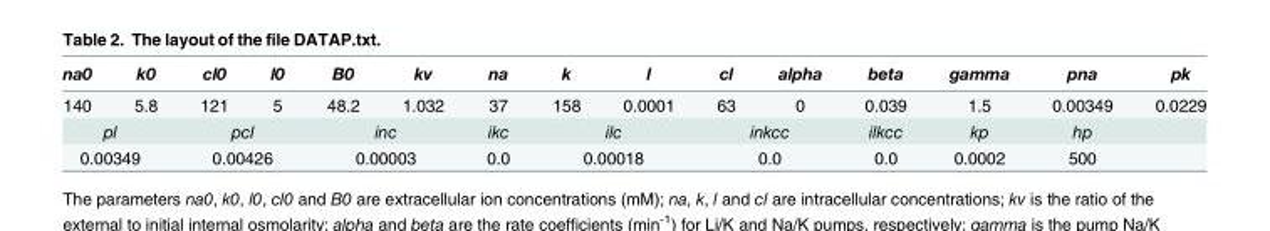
<table><thead><tr><td>na0</td><td>k0</td><td>cl0</td><td>l0</td><td>B0</td><td>kv</td><td>na</td><td>k</td><td>l</td><td>cl</td><td>alpha</td><td>beta</td><td>gamma</td><td>pna</td><td>pk</td></tr></thead><tbody><tr><td>140</td><td>5.8</td><td>121</td><td>5</td><td>48.2</td><td>1.032</td><td>37</td><td>158</td><td>0.0001</td><td>63</td><td>0</td><td>0.039</td><td>1.5</td><td>0.00349</td><td>0.0229</td></tr><tr><td colspan="2">pl</td><td colspan="2">pcl</td><td colspan="2">inc</td><td>ikc</td><td colspan="2">ilc</td><td colspan="2">inkcc</td><td>ilkcc</td><td>kp</td><td>hp</td><td></td></tr><tr><td colspan="2">0.00349</td><td colspan="2">0.00426</td><td colspan="2">0.00003</td><td>0.0</td><td colspan="2">0.00018</td><td colspan="2">0.0</td><td>0.0</td><td>0.0002</td><td>500</td><td></td></tr></tbody></table>